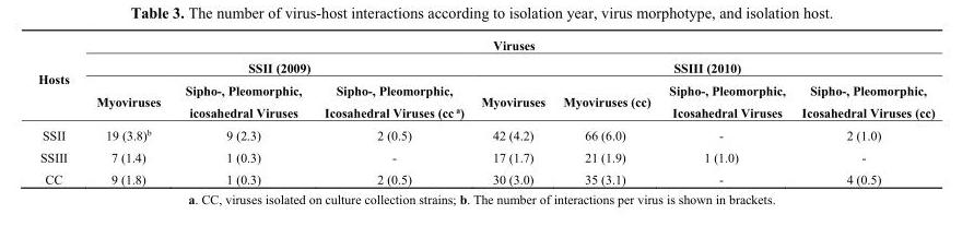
<table><thead><tr><td rowspan="3">Hosts</td><td colspan="7">Viruses</td></tr><tr><td colspan="3">SSII (2009)</td><td colspan="4">SSIII (2010)</td></tr><tr><td>Myoviruses</td><td>Sipho-, Pleomorphic, icosahedral Viruses</td><td>Sipho-, Pleomorphic, Icosahedral Viruses (cc <sup>a</sup>)</td><td>Myoviruses</td><td>Myoviruses (cc)</td><td>Sipho-, Pleomorphic, Icosahedral Viruses</td><td>Sipho-, Pleomorphic, Icosahedral Viruses (cc)</td></tr></thead><tbody><tr><td>SSII</td><td>19 (3.8)<sup>b</sup></td><td>9 (2.3)</td><td>2 (0.5)</td><td>42 (4.2)</td><td>66 (6.0)</td><td>-</td><td>2 (1.0)</td></tr><tr><td>SSIII</td><td>7 (1.4)</td><td>1 (0.3)</td><td>-</td><td>17 (1.7)</td><td>21 (1.9)</td><td>1 (1.0)</td><td>-</td></tr><tr><td>CC</td><td>9 (1.8)</td><td>1 (0.3)</td><td>2 (0.5)</td><td>30 (3.0)</td><td>35 (3.1)</td><td>-</td><td>4 (0.5)</td></tr></tbody></table>